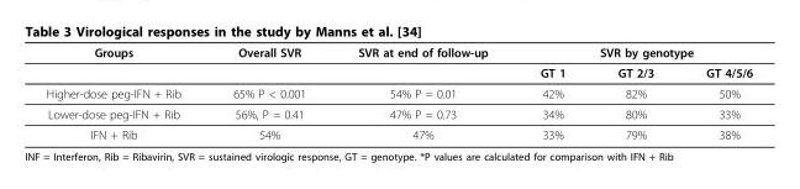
<table><thead><tr><td rowspan="2">Groups</td><td rowspan="2">Overall SVR</td><td rowspan="2">SVR at end of follow-up</td><td colspan="3">SVR by genotype</td></tr><tr><td>GT 1</td><td>GT 2/3</td><td>GT 4/5/6</td></tr></thead><tbody><tr><td>Higher-dose peg-IFN + Rib</td><td>65% P &lt; 0.001</td><td>54% P = 0.01</td><td>42%</td><td>82%</td><td>50%</td></tr><tr><td>Lower-dose peg-IFN + Rib</td><td>56%, P = 0.41</td><td>47% P = 0.73</td><td>34%</td><td>80%</td><td>33%</td></tr><tr><td>IFN + Rib</td><td>54%</td><td>47%</td><td>33%</td><td>79%</td><td>38%</td></tr></tbody></table>